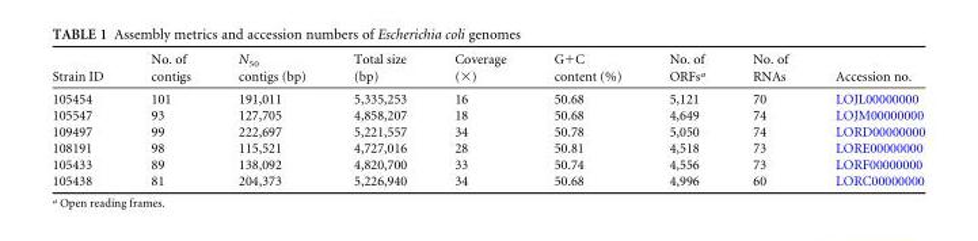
<table><thead><tr><td>Strain ID</td><td>No. of contigs</td><td>N<sub>50</sub> contigs (bp)</td><td>Total size (bp)</td><td>Coverage (×)</td><td>G+C content (%)</td><td>No. of ORFs<sup>a</sup></td><td>No. of RNAs</td><td>Accession no.</td></tr></thead><tbody><tr><td>105454</td><td>101</td><td>191,011</td><td>5,335,253</td><td>16</td><td>50.68</td><td>5,121</td><td>70</td><td>LOJL00000000</td></tr><tr><td>105547</td><td>93</td><td>127,705</td><td>4,858,207</td><td>18</td><td>50.68</td><td>4,649</td><td>74</td><td>LOJM00000000</td></tr><tr><td>109497</td><td>99</td><td>222,697</td><td>5,221,557</td><td>34</td><td>50.78</td><td>5,050</td><td>74</td><td>LORD00000000</td></tr><tr><td>108191</td><td>98</td><td>115,521</td><td>4,727,016</td><td>28</td><td>50.81</td><td>4,518</td><td>73</td><td>LORE00000000</td></tr><tr><td>105433</td><td>89</td><td>138,092</td><td>4,820,700</td><td>33</td><td>50.74</td><td>4,556</td><td>73</td><td>LORF00000000</td></tr><tr><td>105438</td><td>81</td><td>204,373</td><td>5,226,940</td><td>34</td><td>50.68</td><td>4,996</td><td>60</td><td>LORC00000000</td></tr></tbody></table>